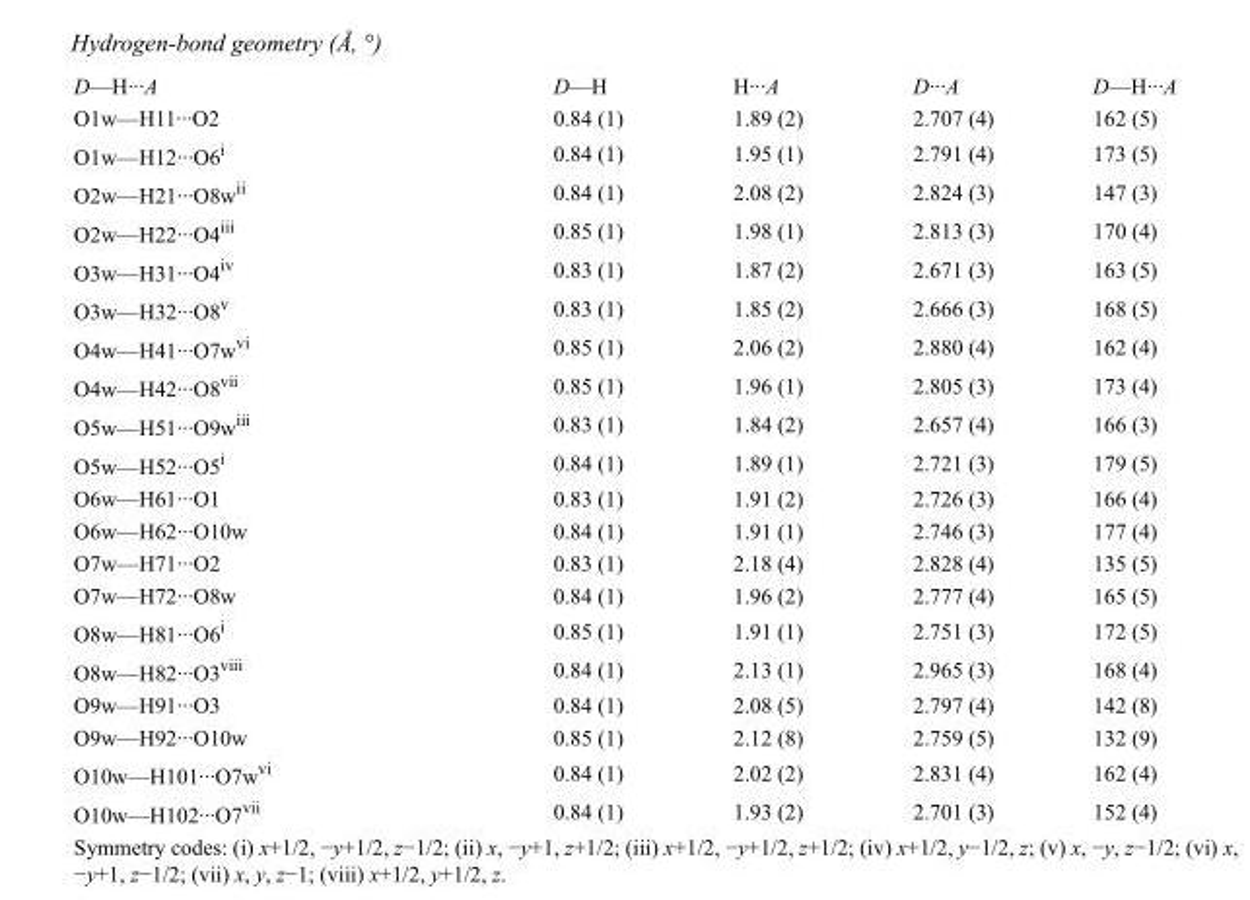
<table><tbody><tr><td>D—H···A</td><td>D—H</td><td>H···A</td><td>D···A</td><td>D—H···A</td></tr><tr><td>O1w—H11···O2</td><td>0.84 (1)</td><td>1.89 (2)</td><td>2.707 (4)</td><td>162 (5)</td></tr><tr><td>O1w—H12···O6<sup>i</sup></td><td>0.84 (1)</td><td>1.95 (1)</td><td>2.791 (4)</td><td>173 (5)</td></tr><tr><td>O2w—H21···O8w<sup>ii</sup></td><td>0.84 (1)</td><td>2.08 (2)</td><td>2.824 (3)</td><td>147 (3)</td></tr><tr><td>O2w—H22···O4<sup>iii</sup></td><td>0.85 (1)</td><td>1.98 (1)</td><td>2.813 (3)</td><td>170 (4)</td></tr><tr><td>O3w—H31···O4<sup>iv</sup></td><td>0.83 (1)</td><td>1.87 (2)</td><td>2.671 (3)</td><td>163 (5)</td></tr><tr><td>O3w—H32···O8<sup>v</sup></td><td>0.83 (1)</td><td>1.85 (2)</td><td>2.666 (3)</td><td>168 (5)</td></tr><tr><td>O4w—H41···O7w<sup>vi</sup></td><td>0.85 (1)</td><td>2.06 (2)</td><td>2.880 (4)</td><td>162 (4)</td></tr><tr><td>O4w—H42···O8<sup>vii</sup></td><td>0.85 (1)</td><td>1.96 (1)</td><td>2.805 (3)</td><td>173 (4)</td></tr><tr><td>O5w—H51···O9w<sup>iii</sup></td><td>0.83 (1)</td><td>1.84 (2)</td><td>2.657 (4)</td><td>166 (3)</td></tr><tr><td>O5w—H52···O5<sup>i</sup></td><td>0.84 (1)</td><td>1.89 (1)</td><td>2.721 (3)</td><td>179 (5)</td></tr><tr><td>O6w—H61···O1</td><td>0.83 (1)</td><td>1.91 (2)</td><td>2.726 (3)</td><td>166 (4)</td></tr><tr><td>O6w—H62···O10w</td><td>0.84 (1)</td><td>1.91 (1)</td><td>2.746 (3)</td><td>177 (4)</td></tr><tr><td>O7w—H71···O2</td><td>0.83 (1)</td><td>2.18 (4)</td><td>2.828 (4)</td><td>135 (5)</td></tr><tr><td>O7w—H72···O8w</td><td>0.84 (1)</td><td>1.96 (2)</td><td>2.777 (4)</td><td>165 (5)</td></tr><tr><td>O8w—H81···O6<sup>i</sup></td><td>0.85 (1)</td><td>1.91 (1)</td><td>2.751 (3)</td><td>172 (5)</td></tr><tr><td>O8w—H82···O3<sup>viii</sup></td><td>0.84 (1)</td><td>2.13 (1)</td><td>2.965 (3)</td><td>168 (4)</td></tr><tr><td>O9w—H91···O3</td><td>0.84 (1)</td><td>2.08 (5)</td><td>2.797 (4)</td><td>142 (8)</td></tr><tr><td>O9w—H92···O10w</td><td>0.85 (1)</td><td>2.12 (8)</td><td>2.759 (5)</td><td>132 (9)</td></tr><tr><td>O10w—H101···O7w<sup>vi</sup></td><td>0.84 (1)</td><td>2.02 (2)</td><td>2.831 (4)</td><td>162 (4)</td></tr><tr><td>O10w—H102···O7<sup>vii</sup></td><td>0.84 (1)</td><td>1.93 (2)</td><td>2.701 (3)</td><td>152 (4)</td></tr></tbody></table>